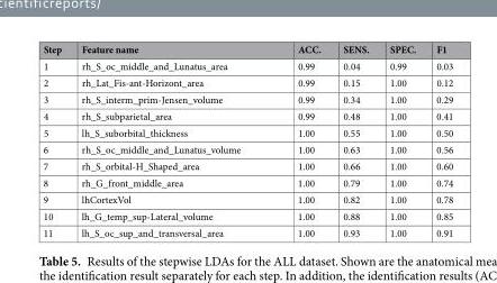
<table><thead><tr><td>Step</td><td>Feature name</td><td>ACC.</td><td>SENS.</td><td>SPEC.</td><td>F1</td></tr></thead><tbody><tr><td>1</td><td>rh_S_oc_middle_and_Lunatus_area</td><td>0.99</td><td>0.04</td><td>0.99</td><td>0.03</td></tr><tr><td>2</td><td>rh_Lat_Fis-ant-Horizont_area</td><td>0.99</td><td>0.15</td><td>1.00</td><td>0.12</td></tr><tr><td>3</td><td>rh_S_interm_prim-Jensen_volume</td><td>0.99</td><td>0.34</td><td>1.00</td><td>0.29</td></tr><tr><td>4</td><td>rh_S_subparietal_area</td><td>0.99</td><td>0.48</td><td>1.00</td><td>0.41</td></tr><tr><td>5</td><td>lh_S_suborbital_thickness</td><td>1.00</td><td>0.55</td><td>1.00</td><td>0.50</td></tr><tr><td>6</td><td>rh_S_oc_middle_and_Lunatus_volume</td><td>1.00</td><td>0.63</td><td>1.00</td><td>0.56</td></tr><tr><td>7</td><td>rh_S_orbital-H_Shaped_area</td><td>1.00</td><td>0.66</td><td>1.00</td><td>0.60</td></tr><tr><td>8</td><td>rh_G_front_middle_area</td><td>1.00</td><td>0.79</td><td>1.00</td><td>0.74</td></tr><tr><td>9</td><td>lhCortexVol</td><td>1.00</td><td>0.82</td><td>1.00</td><td>0.78</td></tr><tr><td>10</td><td>lh_G_temp_sup-Lateral_volume</td><td>1.00</td><td>0.88</td><td>1.00</td><td>0.85</td></tr><tr><td>11</td><td>lh_S_oc_sup_and_transversal_area</td><td>1.00</td><td>0.93</td><td>1.00</td><td>0.91</td></tr></tbody></table>